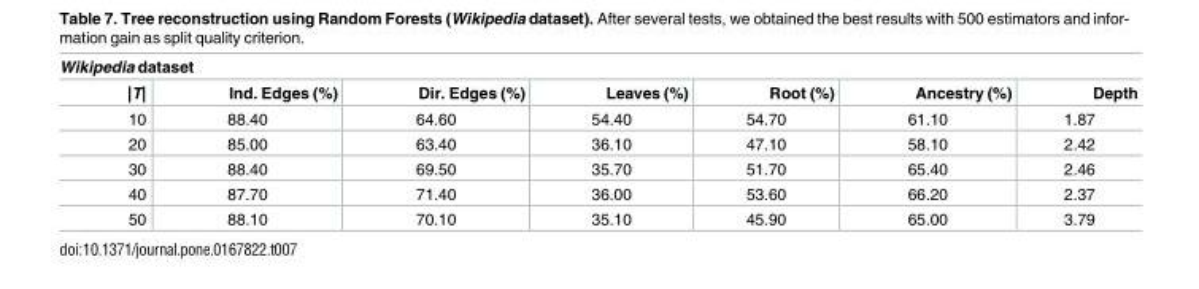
<table><thead><tr><td colspan="7">Wikipedia dataset</td></tr><tr><td>|T|</td><td>Ind. Edges (%)</td><td>Dir. Edges (%)</td><td>Leaves (%)</td><td>Root (%)</td><td>Ancestry (%)</td><td>Depth</td></tr></thead><tbody><tr><td>10</td><td>88.40</td><td>64.60</td><td>54.40</td><td>54.70</td><td>61.10</td><td>1.87</td></tr><tr><td>20</td><td>85.00</td><td>63.40</td><td>36.10</td><td>47.10</td><td>58.10</td><td>2.42</td></tr><tr><td>30</td><td>88.40</td><td>69.50</td><td>35.70</td><td>51.70</td><td>65.40</td><td>2.46</td></tr><tr><td>40</td><td>87.70</td><td>71.40</td><td>36.00</td><td>53.60</td><td>66.20</td><td>2.37</td></tr><tr><td>50</td><td>88.10</td><td>70.10</td><td>35.10</td><td>45.90</td><td>65.00</td><td>3.79</td></tr></tbody></table>